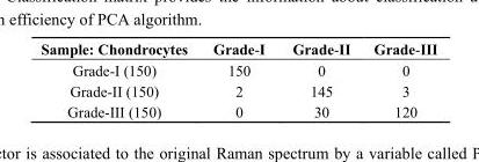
<table><thead><tr><td>Sample: Chondrocytes</td><td>Grade-I</td><td>Grade-II</td><td>Grade-III</td></tr></thead><tbody><tr><td>Grade-I (150)</td><td>150</td><td>0</td><td>0</td></tr><tr><td>Grade-II (150)</td><td>2</td><td>145</td><td>3</td></tr><tr><td>Grade-III (150)</td><td>0</td><td>30</td><td>120</td></tr></tbody></table>